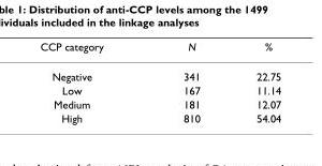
<table><thead><tr><td>CCP category</td><td>N</td><td>%</td></tr></thead><tbody><tr><td>Negative</td><td>341</td><td>22.75</td></tr><tr><td>Low</td><td>167</td><td>11.14</td></tr><tr><td>Medium</td><td>181</td><td>12.07</td></tr><tr><td>High</td><td>810</td><td>54.04</td></tr></tbody></table>